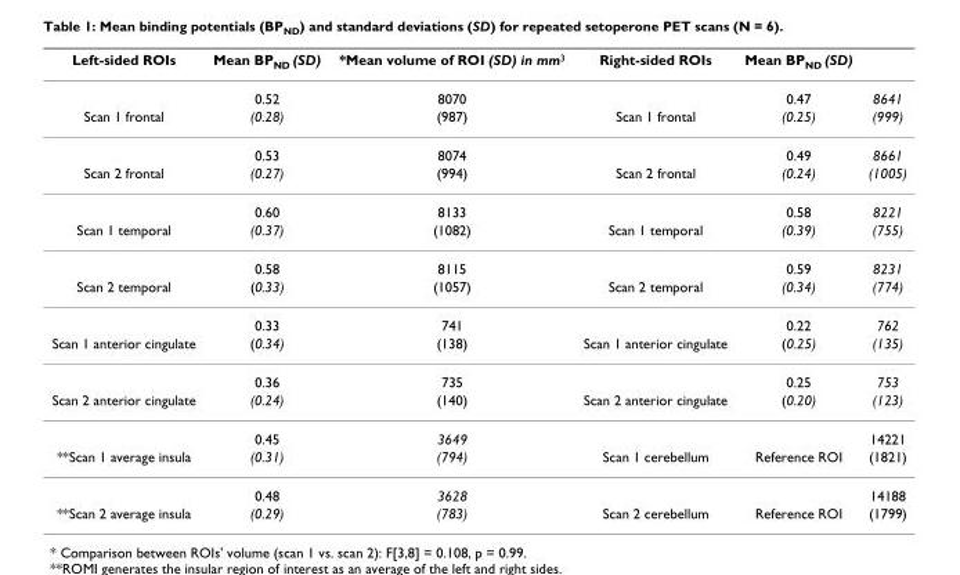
<table><thead><tr><td>Left-sided ROIs</td><td>Mean BP<sub>ND</sub> (SD)</td><td>*Mean volume of ROI (SD) in mm<sup>3</sup></td><td>Right-sided ROIs</td><td>Mean BP<sub>ND</sub> (SD)</td><td></td></tr></thead><tbody><tr><td></td><td>0.52</td><td>8070</td><td></td><td>0.47</td><td>8641</td></tr><tr><td rowspan="2">Scan 1 frontal</td><td>(0.28)</td><td>(987)</td><td>Scan 1 frontal</td><td>(0.25)</td><td>(999)</td></tr><tr><td>0.53</td><td>8074</td><td></td><td>0.49</td><td>8661</td></tr><tr><td rowspan="2">Scan 2 frontal</td><td>(0.27)</td><td>(994)</td><td>Scan 2 frontal</td><td>(0.24)</td><td>(1005)</td></tr><tr><td>0.60</td><td>8133</td><td></td><td>0.58</td><td>8221</td></tr><tr><td rowspan="2">Scan 1 temporal</td><td>(0.37)</td><td>(1082)</td><td>Scan 1 temporal</td><td>(0.39)</td><td>(755)</td></tr><tr><td>0.58</td><td>8115</td><td></td><td>0.59</td><td>8231</td></tr><tr><td rowspan="2">Scan 2 temporal</td><td>(0.33)</td><td>(1057)</td><td>Scan 2 temporal</td><td>(0.34)</td><td>(774)</td></tr><tr><td>0.33</td><td>741</td><td></td><td>0.22</td><td>762</td></tr><tr><td rowspan="2">Scan 1 anterior cingulate</td><td>(0.34)</td><td>(138)</td><td>Scan 1 anterior cingulate</td><td>(0.25)</td><td>(135)</td></tr><tr><td>0.36</td><td>735</td><td></td><td>0.25</td><td>753</td></tr><tr><td rowspan="2">Scan 2 anterior cingulate</td><td>(0.24)</td><td>(140)</td><td>Scan 2 anterior cingulate</td><td>(0.20)</td><td>(123)</td></tr><tr><td>0.45</td><td>3649</td><td></td><td></td><td>14221</td></tr><tr><td rowspan="2">**Scan 1 average insula</td><td>(0.31)</td><td>(794)</td><td>Scan 1 cerebellum</td><td>Reference ROI</td><td>(1821)</td></tr><tr><td>0.48</td><td>3628</td><td></td><td></td><td>14188</td></tr><tr><td>**Scan 2 average insula</td><td>(0.29)</td><td>(783)</td><td>Scan 2 cerebellum</td><td>Reference ROI</td><td>(1799)</td></tr></tbody></table>